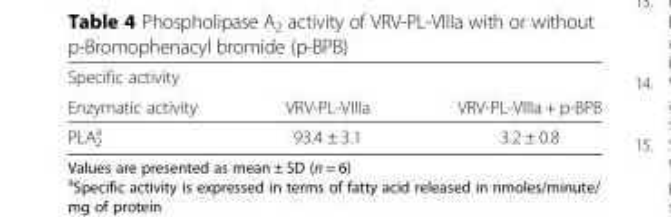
<table><thead><tr><td colspan="3">Specific activity</td></tr><tr><td>Enzymatic activity</td><td>VRV-PL-VIIIa</td><td>VRV-PL-VIIIa + p-BPB</td></tr></thead><tbody><tr><td>PLA<sub>2</sub> <sup>a</sup></td><td>93.4 ± 3.1</td><td>3.2 ± 0.8</td></tr></tbody></table>